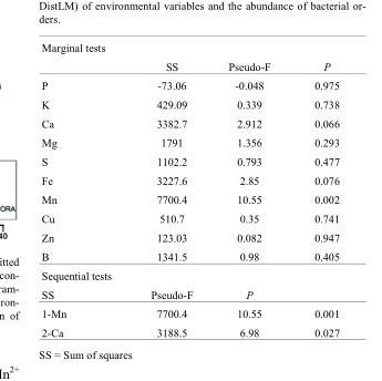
<table><thead><tr><td rowspan="2">Marginal tests</td><td rowspan="2">SS</td><td rowspan="2">Pseudo-F</td><td rowspan="2">P</td></tr><tr></tr></thead><tbody><tr><td>P</td><td>-73.06</td><td>-0.048</td><td>0.975</td></tr><tr><td>K</td><td>429.09</td><td>0.339</td><td>0.738</td></tr><tr><td>Ca</td><td>3382.7</td><td>2.912</td><td>0.066</td></tr><tr><td>Mg</td><td>1791</td><td>1.356</td><td>0.293</td></tr><tr><td>S</td><td>1102.2</td><td>0.793</td><td>0.477</td></tr><tr><td>Fe</td><td>3227.6</td><td>2.85</td><td>0.076</td></tr><tr><td>Mn</td><td>7700.4</td><td>10.55</td><td>0.002</td></tr><tr><td>Cu</td><td>510.7</td><td>0.35</td><td>0.741</td></tr><tr><td>Zn</td><td>123.03</td><td>0.082</td><td>0.947</td></tr><tr><td>B</td><td>1341.5</td><td>0.98</td><td>0.405</td></tr><tr><td colspan="4">Sequential tests</td></tr><tr><td>SS</td><td>Pseudo-F</td><td>P</td><td></td></tr><tr><td>1-Mn</td><td>7700.4</td><td>10.55</td><td>0.001</td></tr><tr><td>2-Ca</td><td>3188.5</td><td>6.98</td><td>0.027</td></tr></tbody></table>